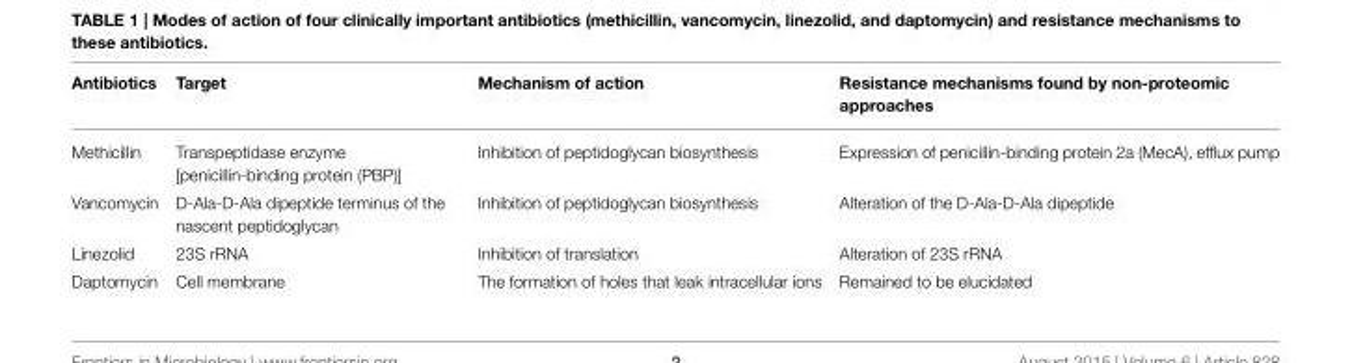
<table><thead><tr><td>Antibiotics</td><td>Target</td><td>Mechanism of action</td><td>Resistance mechanisms found by non-proteomic approaches</td></tr></thead><tbody><tr><td>Methicillin</td><td>Transpeptidase enzyme [penicillin-binding protein (PBP)]</td><td>Inhibition of peptidoglycan biosynthesis</td><td>Expression of penicillin-binding protein 2a (MecA), efflux pump</td></tr><tr><td>Vancomycin</td><td>D-Ala-D-Ala dipeptide terminus of the nascent peptidoglycan</td><td>Inhibition of peptidoglycan biosynthesis</td><td>Alteration of the D-Ala-D-Ala dipeptide</td></tr><tr><td>Linezolid</td><td>23S rRNA</td><td>Inhibition of translation</td><td>Alteration of 23S rRNA</td></tr><tr><td>Daptomycin</td><td>Cell membrane</td><td>The formation of holes that leak intracellular ions</td><td>Remained to be elucidated</td></tr></tbody></table>